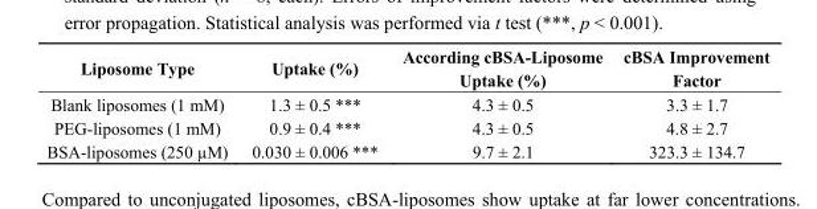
<table><thead><tr><td>Liposome Type</td><td>Uptake (%)</td><td>According cBSA-Liposome Uptake (%)</td><td>cBSA Improvement Factor</td></tr></thead><tbody><tr><td>Blank liposomes (1 mM)</td><td>1.3 ± 0.5 ***</td><td>4.3 ± 0.5</td><td>3.3 ± 1.7</td></tr><tr><td>PEG-liposomes (1 mM)</td><td>0.9 ± 0.4 ***</td><td>4.3 ± 0.5</td><td>4.8 ± 2.7</td></tr><tr><td>BSA-liposomes (250 µM)</td><td>0.030 ± 0.006 ***</td><td>9.7 ± 2.1</td><td>323.3 ± 134.7</td></tr></tbody></table>